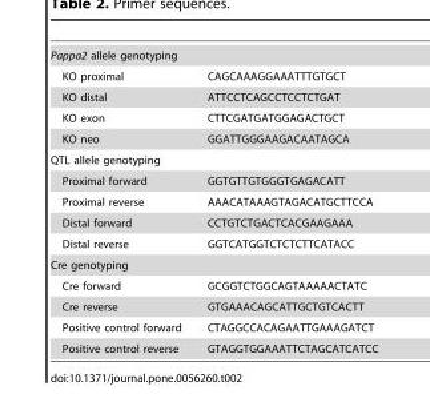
<table><tbody><tr><td colspan="2">Pappa2 allele genotyping</td></tr><tr><td>KO proximal</td><td>CAGCAAAGGAAATTTGTGCT</td></tr><tr><td>KO distal</td><td>ATTCCTCAGCCTCCTCTGAT</td></tr><tr><td>KO exon</td><td>CTTCGATGATGGAGACTGCT</td></tr><tr><td>KO neo</td><td>GGATTGGGAAGACAATAGCA</td></tr><tr><td colspan="2">QTL allele genotyping</td></tr><tr><td>Proximal forward</td><td>GGTGTTGTGGGTGAGACATT</td></tr><tr><td>Proximal reverse</td><td>AAACATAAAGTAGACATGCTTCCA</td></tr><tr><td>Distal forward</td><td>CCTGTCTGACTCACGAAGAAA</td></tr><tr><td>Distal reverse</td><td>GGTCATGGTCTCTCTTCATACC</td></tr><tr><td colspan="2">Cre genotyping</td></tr><tr><td>Cre forward</td><td>GCGGTCTGGCAGTAAAAACTATC</td></tr><tr><td>Cre reverse</td><td>GTGAAACAGCATTGCTGTCACTT</td></tr><tr><td>Positive control forward</td><td>CTAGGCCACAGAATTGAAAGATCT</td></tr><tr><td>Positive control reverse</td><td>GTAGGTGGAAATTCTAGCATCATCC</td></tr></tbody></table>